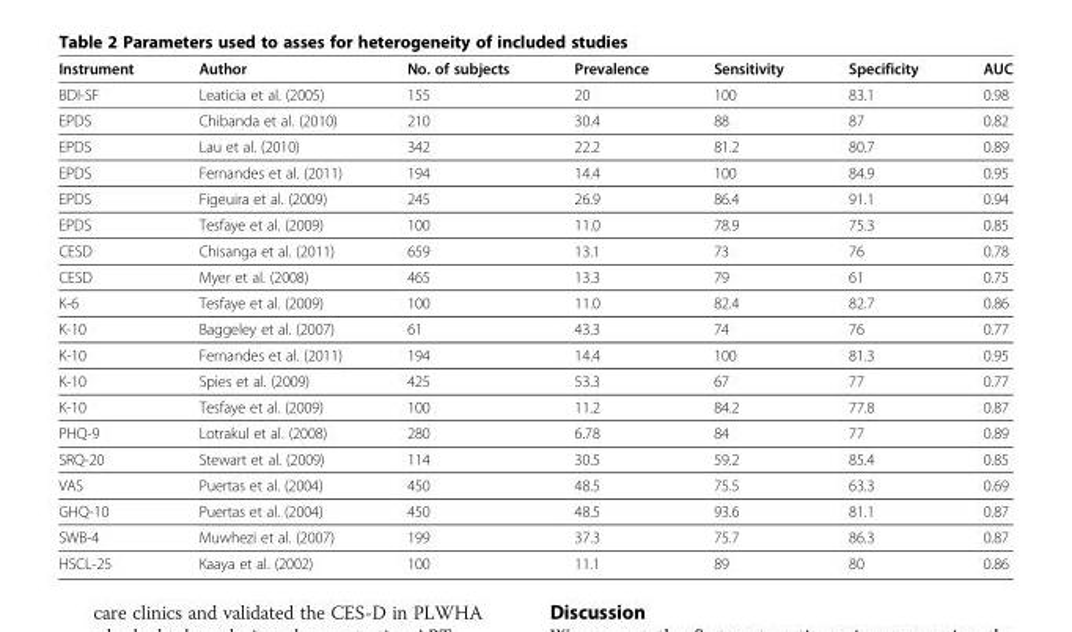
<table><thead><tr><td>Instrument</td><td>Author</td><td>No. of subjects</td><td>Prevalence</td><td>Sensitivity</td><td>Specificity</td><td>AUC</td></tr></thead><tbody><tr><td>BDI-SF</td><td>Leaticia et al. (2005)</td><td>155</td><td>20</td><td>100</td><td>83.1</td><td>0.98</td></tr><tr><td>EPDS</td><td>Chibanda et al. (2010)</td><td>210</td><td>30.4</td><td>88</td><td>87</td><td>0.82</td></tr><tr><td>EPDS</td><td>Lau et al. (2010)</td><td>342</td><td>22.2</td><td>81.2</td><td>80.7</td><td>0.89</td></tr><tr><td>EPDS</td><td>Fernandes et al. (2011)</td><td>194</td><td>14.4</td><td>100</td><td>84.9</td><td>0.95</td></tr><tr><td>EPDS</td><td>Figeuira et al. (2009)</td><td>245</td><td>26.9</td><td>86.4</td><td>91.1</td><td>0.94</td></tr><tr><td>EPDS</td><td>Tesfaye et al. (2009)</td><td>100</td><td>11.0</td><td>78.9</td><td>75.3</td><td>0.85</td></tr><tr><td>CESD</td><td>Chisanga et al. (2011)</td><td>659</td><td>13.1</td><td>73</td><td>76</td><td>0.78</td></tr><tr><td>CESD</td><td>Myer et al. (2008)</td><td>465</td><td>13.3</td><td>79</td><td>61</td><td>0.75</td></tr><tr><td>K-6</td><td>Tesfaye et al. (2009)</td><td>100</td><td>11.0</td><td>82.4</td><td>82.7</td><td>0.86</td></tr><tr><td>K-10</td><td>Baggeley et al. (2007)</td><td>61</td><td>43.3</td><td>74</td><td>76</td><td>0.77</td></tr><tr><td>K-10</td><td>Fernandes et al. (2011)</td><td>194</td><td>14.4</td><td>100</td><td>81.3</td><td>0.95</td></tr><tr><td>K-10</td><td>Spies et al. (2009)</td><td>425</td><td>53.3</td><td>67</td><td>77</td><td>0.77</td></tr><tr><td>K-10</td><td>Tesfaye et al. (2009)</td><td>100</td><td>11.2</td><td>84.2</td><td>77.8</td><td>0.87</td></tr><tr><td>PHQ-9</td><td>Lotrakul et al. (2008)</td><td>280</td><td>6.78</td><td>84</td><td>77</td><td>0.89</td></tr><tr><td>SRQ-20</td><td>Stewart et al. (2009)</td><td>114</td><td>30.5</td><td>59.2</td><td>85.4</td><td>0.85</td></tr><tr><td>VAS</td><td>Puertas et al. (2004)</td><td>450</td><td>48.5</td><td>75.5</td><td>63.3</td><td>0.69</td></tr><tr><td>GHQ-10</td><td>Puertas et al. (2004)</td><td>450</td><td>48.5</td><td>93.6</td><td>81.1</td><td>0.87</td></tr><tr><td>SWB-4</td><td>Muwhezi et al. (2007)</td><td>199</td><td>37.3</td><td>75.7</td><td>86.3</td><td>0.87</td></tr><tr><td>HSCL-25</td><td>Kaaya et al. (2002)</td><td>100</td><td>11.1</td><td>89</td><td>80</td><td>0.86</td></tr></tbody></table>